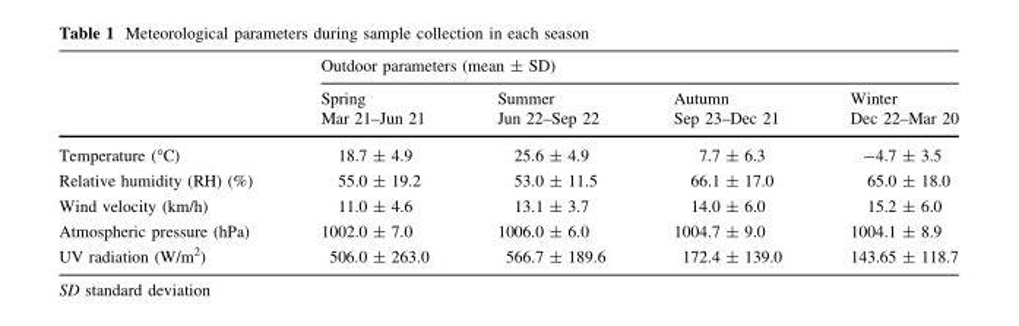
<table><thead><tr><td rowspan="3"></td><td colspan="4">Outdoor parameters (mean ± SD)</td></tr><tr><td rowspan="2">Spring Mar 21–Jun 21</td><td rowspan="2">Summer Jun 22–Sep 22</td><td rowspan="2">Autumn Sep 23–Dec 21</td><td rowspan="2">Winter Dec 22–Mar 20</td></tr><tr></tr></thead><tbody><tr><td>Temperature (°C)</td><td>18.7 ± 4.9</td><td>25.6 ± 4.9</td><td>7.7 ± 6.3</td><td>-4.7 ± 3.5</td></tr><tr><td>Relative humidity (RH) (%)</td><td>55.0 ± 19.2</td><td>53.0 ± 11.5</td><td>66.1 ± 17.0</td><td>65.0 ± 18.0</td></tr><tr><td>Wind velocity (km/h)</td><td>11.0 ± 4.6</td><td>13.1 ± 3.7</td><td>14.0 ± 6.0</td><td>15.2 ± 6.0</td></tr><tr><td>Atmospheric pressure (hPa)</td><td>1002.0 ± 7.0</td><td>1006.0 ± 6.0</td><td>1004.7 ± 9.0</td><td>1004.1 ± 8.9</td></tr><tr><td>UV radiation (W/m<sup>2</sup>)</td><td>506.0 ± 263.0</td><td>566.7 ± 189.6</td><td>172.4 ± 139.0</td><td>143.65 ± 118.7</td></tr></tbody></table>